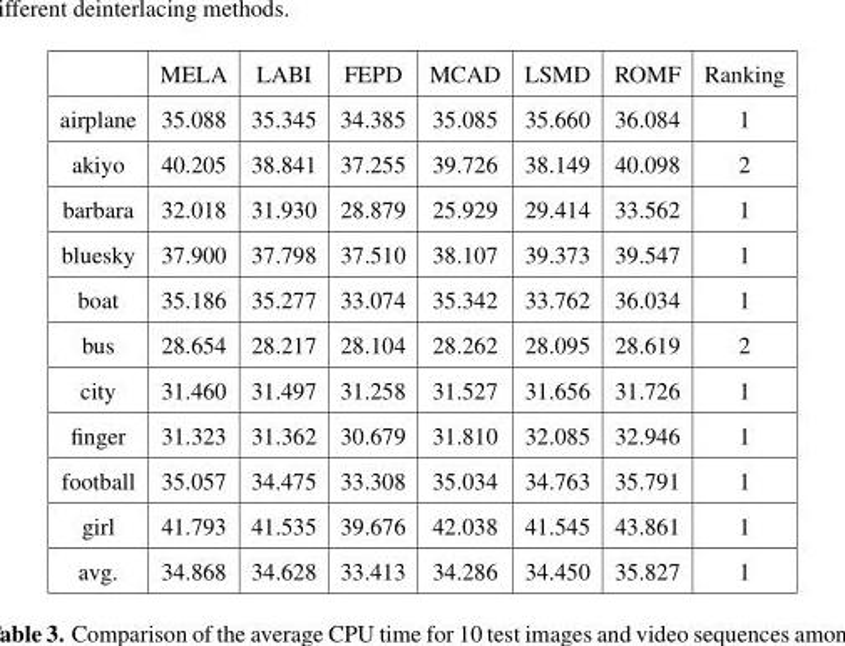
<table><thead><tr><td></td><td>MELA</td><td>LABI</td><td>FEPD</td><td>MCAD</td><td>LSMD</td><td>ROMF</td><td>Ranking</td></tr></thead><tbody><tr><td>airplane</td><td>35.088</td><td>35.345</td><td>34.385</td><td>35.085</td><td>35.660</td><td>36.084</td><td>1</td></tr><tr><td>akiyo</td><td>40.205</td><td>38.841</td><td>37.255</td><td>39.726</td><td>38.149</td><td>40.098</td><td>2</td></tr><tr><td>barbara</td><td>32.018</td><td>31.930</td><td>28.879</td><td>25.929</td><td>29.414</td><td>33.562</td><td>1</td></tr><tr><td>bluesky</td><td>37.900</td><td>37.798</td><td>37.510</td><td>38.107</td><td>39.373</td><td>39.547</td><td>1</td></tr><tr><td>boat</td><td>35.186</td><td>35.277</td><td>33.074</td><td>35.342</td><td>33.762</td><td>36.034</td><td>1</td></tr><tr><td>bus</td><td>28.654</td><td>28.217</td><td>28.104</td><td>28.262</td><td>28.095</td><td>28.619</td><td>2</td></tr><tr><td>city</td><td>31.460</td><td>31.497</td><td>31.258</td><td>31.527</td><td>31.656</td><td>31.726</td><td>1</td></tr><tr><td>finger</td><td>31.323</td><td>31.362</td><td>30.679</td><td>31.810</td><td>32.085</td><td>32.946</td><td>1</td></tr><tr><td>football</td><td>35.057</td><td>34.475</td><td>33.308</td><td>35.034</td><td>34.763</td><td>35.791</td><td>1</td></tr><tr><td>girl</td><td>41.793</td><td>41.535</td><td>39.676</td><td>42.038</td><td>41.545</td><td>43.861</td><td>1</td></tr><tr><td>avg.</td><td>34.868</td><td>34.628</td><td>33.413</td><td>34.286</td><td>34.450</td><td>35.827</td><td>1</td></tr></tbody></table>